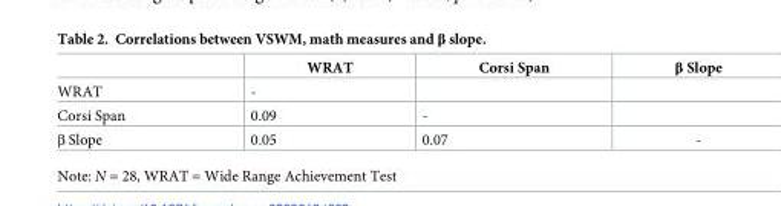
<table><thead><tr><td></td><td>WRAT</td><td>Corsi Span</td><td>β Slope</td></tr></thead><tbody><tr><td>WRAT</td><td>-</td><td></td><td></td></tr><tr><td>Corsi Span</td><td>0.09</td><td>-</td><td></td></tr><tr><td>β Slope</td><td>0.05</td><td>0.07</td><td>-</td></tr></tbody></table>